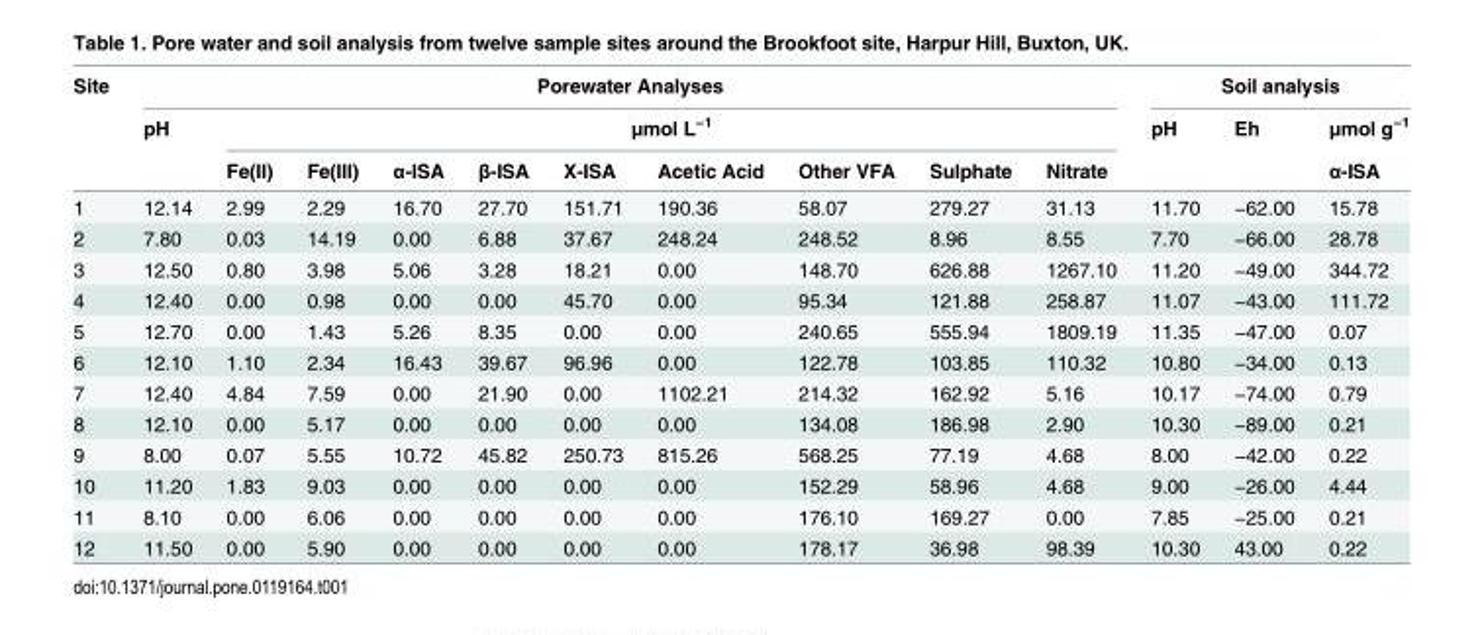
<table><thead><tr><td rowspan="3">Site</td><td colspan="10">Porewater Analyses</td><td colspan="3">Soil analysis</td></tr><tr><td rowspan="2">pH</td><td colspan="9">μmol L<sup>−1</sup></td><td rowspan="2">pH</td><td rowspan="2">Eh</td><td rowspan="2">μmol g<sup>−1</sup> α-ISA</td></tr><tr><td>Fe(II)</td><td>Fe(III)</td><td>α-ISA</td><td>β-ISA</td><td>X-ISA</td><td>Acetic Acid</td><td>Other VFA</td><td>Sulphate</td><td>Nitrate</td></tr></thead><tbody><tr><td>1</td><td>12.14</td><td>2.99</td><td>2.29</td><td>16.70</td><td>27.70</td><td>151.71</td><td>190.36</td><td>58.07</td><td>279.27</td><td>31.13</td><td>11.70</td><td>−62.00</td><td>15.78</td></tr><tr><td>2</td><td>7.80</td><td>0.03</td><td>14.19</td><td>0.00</td><td>6.88</td><td>37.67</td><td>248.24</td><td>248.52</td><td>8.96</td><td>8.55</td><td>7.70</td><td>−66.00</td><td>28.78</td></tr><tr><td>3</td><td>12.50</td><td>0.80</td><td>3.98</td><td>5.06</td><td>3.28</td><td>18.21</td><td>0.00</td><td>148.70</td><td>626.88</td><td>1267.10</td><td>11.20</td><td>−49.00</td><td>344.72</td></tr><tr><td>4</td><td>12.40</td><td>0.00</td><td>0.98</td><td>0.00</td><td>0.00</td><td>45.70</td><td>0.00</td><td>95.34</td><td>121.88</td><td>258.87</td><td>11.07</td><td>−43.00</td><td>111.72</td></tr><tr><td>5</td><td>12.70</td><td>0.00</td><td>1.43</td><td>5.26</td><td>8.35</td><td>0.00</td><td>0.00</td><td>240.65</td><td>555.94</td><td>1809.19</td><td>11.35</td><td>−47.00</td><td>0.07</td></tr><tr><td>6</td><td>12.10</td><td>1.10</td><td>2.34</td><td>16.43</td><td>39.67</td><td>96.96</td><td>0.00</td><td>122.78</td><td>103.85</td><td>110.32</td><td>10.80</td><td>−34.00</td><td>0.13</td></tr><tr><td>7</td><td>12.40</td><td>4.84</td><td>7.59</td><td>0.00</td><td>21.90</td><td>0.00</td><td>1102.21</td><td>214.32</td><td>162.92</td><td>5.16</td><td>10.17</td><td>−74.00</td><td>0.79</td></tr><tr><td>8</td><td>12.10</td><td>0.00</td><td>5.17</td><td>0.00</td><td>0.00</td><td>0.00</td><td>0.00</td><td>134.08</td><td>186.98</td><td>2.90</td><td>10.30</td><td>−89.00</td><td>0.21</td></tr><tr><td>9</td><td>8.00</td><td>0.07</td><td>5.55</td><td>10.72</td><td>45.82</td><td>250.73</td><td>815.26</td><td>568.25</td><td>77.19</td><td>4.68</td><td>8.00</td><td>−42.00</td><td>0.22</td></tr><tr><td>10</td><td>11.20</td><td>1.83</td><td>9.03</td><td>0.00</td><td>0.00</td><td>0.00</td><td>0.00</td><td>152.29</td><td>58.96</td><td>4.68</td><td>9.00</td><td>−26.00</td><td>4.44</td></tr><tr><td>11</td><td>8.10</td><td>0.00</td><td>6.06</td><td>0.00</td><td>0.00</td><td>0.00</td><td>0.00</td><td>176.10</td><td>169.27</td><td>0.00</td><td>7.85</td><td>−25.00</td><td>0.21</td></tr><tr><td>12</td><td>11.50</td><td>0.00</td><td>5.90</td><td>0.00</td><td>0.00</td><td>0.00</td><td>0.00</td><td>178.17</td><td>36.98</td><td>98.39</td><td>10.30</td><td>43.00</td><td>0.22</td></tr></tbody></table>